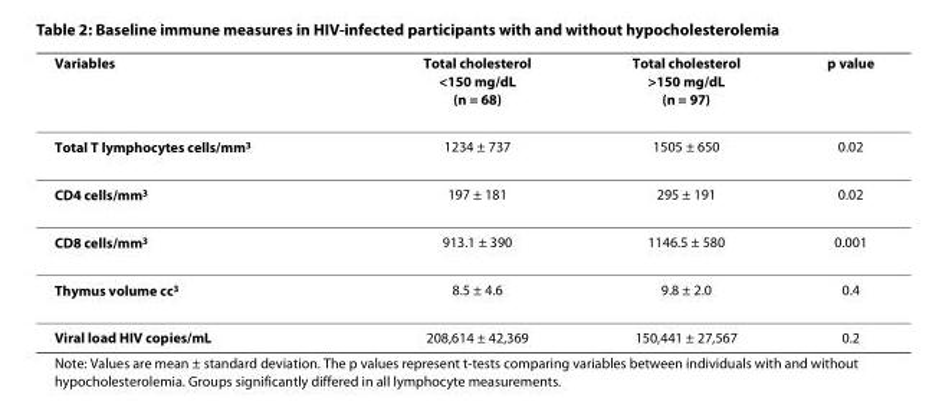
<table><thead><tr><td>Variables</td><td>Total cholesterol &lt;150 mg/dL (n = 68)</td><td>Total cholesterol &gt;150 mg/dL (n = 97)</td><td>p value</td></tr></thead><tbody><tr><td>Total T lymphocytes cells/mm<sup>3</sup></td><td>1234 ± 737</td><td>1505 ± 650</td><td>0.02</td></tr><tr><td>CD4 cells/mm<sup>3</sup></td><td>197 ± 181</td><td>295 ± 191</td><td>0.02</td></tr><tr><td>CD8 cells/mm<sup>3</sup></td><td>913.1 ± 390</td><td>1146.5 ± 580</td><td>0.001</td></tr><tr><td>Thymus volume cc<sup>3</sup></td><td>8.5 ± 4.6</td><td>9.8 ± 2.0</td><td>0.4</td></tr><tr><td>Viral load HIV copies/mL</td><td>208,614 ± 42,369</td><td>150,441 ± 27,567</td><td>0.2</td></tr></tbody></table>